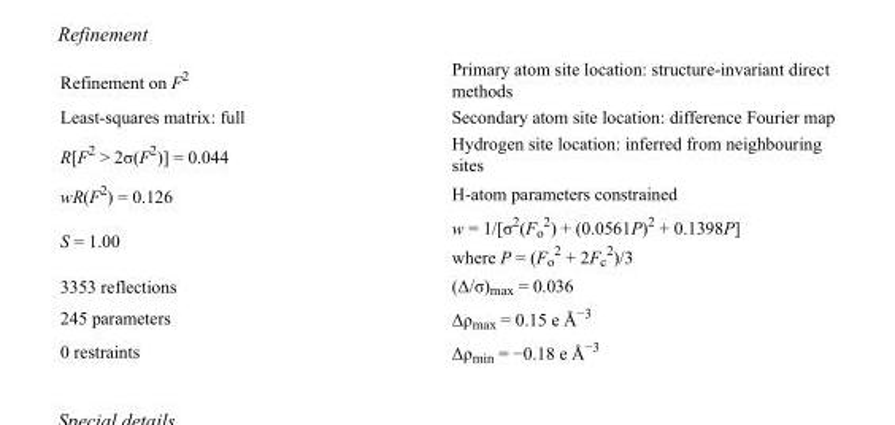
<table><tbody><tr><td>Refinement on F<sup>2</sup></td><td>Primary atom site location: structure-invariant direct methods</td></tr><tr><td>Least-squares matrix: full</td><td>Secondary atom site location: difference Fourier map</td></tr><tr><td>R[F<sup>2</sup> &gt; 2σ(F<sup>2</sup>)] = 0.044</td><td>Hydrogen site location: inferred from neighbouring sites</td></tr><tr><td>wR(F<sup>2</sup>) = 0.126</td><td>H-atom parameters constrained</td></tr><tr><td>S = 1.00</td><td>w = 1/[σ<sup>2</sup>(F<sub>o</sub> <sup>2</sup>) + (0.0561P)<sup>2</sup> + 0.1398P] where P = (F<sub>o</sub> <sup>2</sup> + 2F<sub>c</sub> <sup>2</sup>)/3</td></tr><tr><td>3353 reflections</td><td>(Δ/σ)<sub>max</sub> = 0.036</td></tr><tr><td>245 parameters</td><td>Δρ<sub>max</sub> = 0.15 e Å<sup>−3</sup></td></tr><tr><td>0 restraints</td><td>Δρ<sub>min</sub> = −0.18 e Å<sup>−3</sup></td></tr></tbody></table>